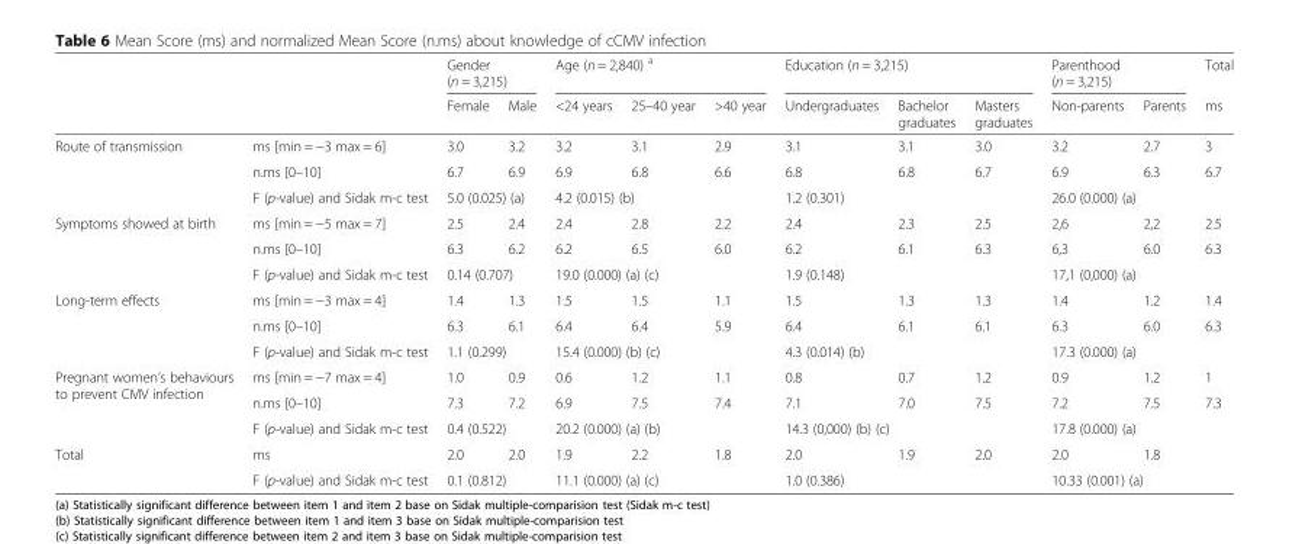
<table><thead><tr><td rowspan="2"></td><td rowspan="2"></td><td colspan="2">Gender (n = 3,215)</td><td colspan="3">Age (n = 2,840) <sup>a</sup></td><td colspan="3">Education (n = 3,215)</td><td colspan="2">Parenthood (n = 3,215)</td><td rowspan="2">Total ms</td></tr><tr><td>Female</td><td>Male</td><td>&lt;24 years</td><td>25–40 year</td><td>&gt;40 year</td><td>Undergraduates</td><td>Bachelor graduates</td><td>Masters graduates</td><td>Non-parents</td><td>Parents</td></tr></thead><tbody><tr><td rowspan="3">Route of transmission</td><td>ms [min = −3 max = 6]</td><td>3.0</td><td>3.2</td><td>3.2</td><td>3.1</td><td>2.9</td><td>3.1</td><td>3.1</td><td>3.0</td><td>3.2</td><td>2.7</td><td>3</td></tr><tr><td>n.ms [0–10]</td><td>6.7</td><td>6.9</td><td>6.9</td><td>6.8</td><td>6.6</td><td>6.8</td><td>6.8</td><td>6.7</td><td>6.9</td><td>6.3</td><td>6.7</td></tr><tr><td>F (p-value) and Sidak m-c test</td><td colspan="2">5.0 (0.025) (a)</td><td colspan="3">4.2 (0.015) (b)</td><td colspan="3">1.2 (0.301)</td><td colspan="2">26.0 (0.000) (a)</td><td></td></tr><tr><td rowspan="3">Symptoms showed at birth</td><td>ms [min = −5 max = 7]</td><td>2.5</td><td>2.4</td><td>2.4</td><td>2.8</td><td>2.2</td><td>2.4</td><td>2.3</td><td>2.5</td><td>2,6</td><td>2,2</td><td>2.5</td></tr><tr><td>n.ms [0–10]</td><td>6.3</td><td>6.2</td><td>6.2</td><td>6.5</td><td>6.0</td><td>6.2</td><td>6.1</td><td>6.3</td><td>6,3</td><td>6.0</td><td>6.3</td></tr><tr><td>F (p-value) and Sidak m-c test</td><td colspan="2">0.14 (0.707)</td><td colspan="3">19.0 (0.000) (a) (c)</td><td colspan="3">1.9 (0.148)</td><td colspan="2">17,1 (0,000) (a)</td><td></td></tr><tr><td rowspan="3">Long-term effects</td><td>ms [min = −3 max = 4]</td><td>1.4</td><td>1.3</td><td>1.5</td><td>1.5</td><td>1.1</td><td>1.5</td><td>1.3</td><td>1.3</td><td>1.4</td><td>1.2</td><td>1.4</td></tr><tr><td>n.ms [0–10]</td><td>6.3</td><td>6.1</td><td>6.4</td><td>6.4</td><td>5.9</td><td>6.4</td><td>6.1</td><td>6.1</td><td>6.3</td><td>6.0</td><td>6.3</td></tr><tr><td>F (p-value) and Sidak m-c test</td><td colspan="2">1.1 (0.299)</td><td colspan="3">15.4 (0.000) (b) (c)</td><td colspan="3">4.3 (0.014) (b)</td><td colspan="2">17.3 (0.000) (a)</td><td></td></tr><tr><td rowspan="3">Pregnant women’s behaviours to prevent CMV infection</td><td>ms [min = −7 max = 4]</td><td>1.0</td><td>0.9</td><td>0.6</td><td>1.2</td><td>1.1</td><td>0.8</td><td>0.7</td><td>1.2</td><td>0.9</td><td>1.2</td><td>1</td></tr><tr><td>n.ms [0–10]</td><td>7.3</td><td>7.2</td><td>6.9</td><td>7.5</td><td>7.4</td><td>7.1</td><td>7.0</td><td>7.5</td><td>7.2</td><td>7.5</td><td>7.3</td></tr><tr><td>F (p-value) and Sidak m-c test</td><td colspan="2">0.4 (0.522)</td><td colspan="3">20.2 (0.000) (a) (b)</td><td colspan="3">14.3 (0,000) (b) (c)</td><td colspan="2">17.8 (0.000) (a)</td><td></td></tr><tr><td rowspan="2">Total</td><td>ms</td><td>2.0</td><td>2.0</td><td>1.9</td><td>2.2</td><td>1.8</td><td>2.0</td><td>1.9</td><td>2.0</td><td>2.0</td><td>1.8</td><td></td></tr><tr><td>F (p-value) and Sidak m-c test</td><td colspan="2">0.1 (0.812)</td><td colspan="3">11.1 (0.000) (a) (c)</td><td colspan="3">1.0 (0.386)</td><td colspan="2">10.33 (0.001) (a)</td><td></td></tr></tbody></table>